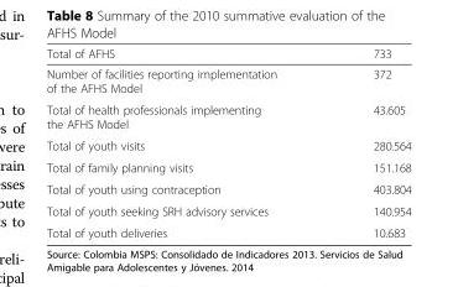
<table><thead><tr><td>Total of AFHS</td><td>733</td></tr></thead><tbody><tr><td>Number of facilities reporting implementation of the AFHS Model</td><td>372</td></tr><tr><td>Total of health professionals implementing the AFHS Model</td><td>43.605</td></tr><tr><td>Total of youth visits</td><td>280.564</td></tr><tr><td>Total of family planning visits</td><td>151.168</td></tr><tr><td>Total of youth using contraception</td><td>403.804</td></tr><tr><td>Total of youth seeking SRH advisory services</td><td>140.954</td></tr><tr><td>Total of youth deliveries</td><td>10.683</td></tr></tbody></table>